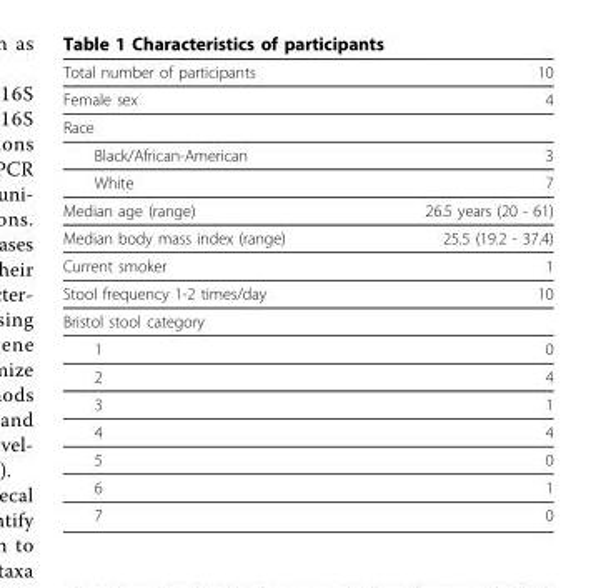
<table><thead><tr><td>Total number of participants</td><td>10</td></tr></thead><tbody><tr><td>Female sex</td><td>4</td></tr><tr><td colspan="2">Race</td></tr><tr><td>Black/African-American</td><td>3</td></tr><tr><td>White</td><td>7</td></tr><tr><td>Median age (range)</td><td>26.5 years (20 - 61)</td></tr><tr><td>Median body mass index (range)</td><td>25.5 (19.2 - 37.4)</td></tr><tr><td>Current smoker</td><td>1</td></tr><tr><td>Stool frequency 1-2 times/day</td><td>10</td></tr><tr><td colspan="2">Bristol stool category</td></tr><tr><td>1</td><td>0</td></tr><tr><td>2</td><td>4</td></tr><tr><td>3</td><td>1</td></tr><tr><td>4</td><td>4</td></tr><tr><td>5</td><td>0</td></tr><tr><td>6</td><td>1</td></tr><tr><td>7</td><td>0</td></tr></tbody></table>